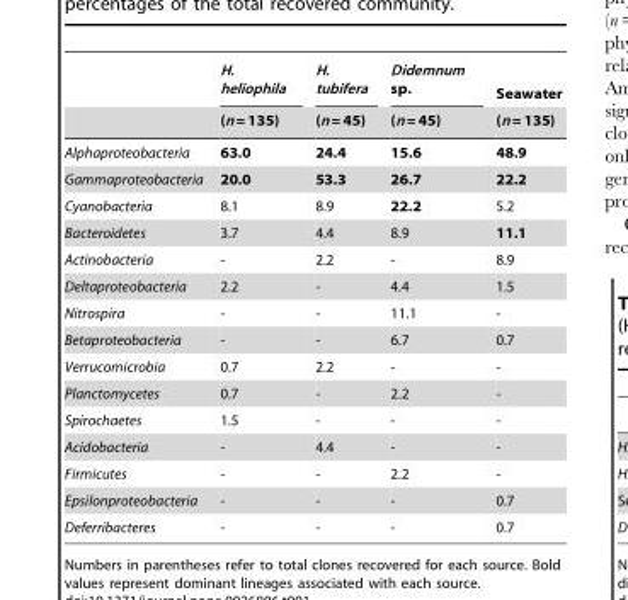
<table><thead><tr><td rowspan="2"></td><td rowspan="2">H. heliophila (n = 135)</td><td rowspan="2">H. tubifera (n = 45)</td><td rowspan="2">Didemnum sp. (n = 45)</td><td rowspan="2">Seawater (n = 135)</td></tr><tr></tr></thead><tbody><tr><td>Alphaproteobacteria</td><td>63.0</td><td>24.4</td><td>15.6</td><td>48.9</td></tr><tr><td>Gammaproteobacteria</td><td>20.0</td><td>53.3</td><td>26.7</td><td>22.2</td></tr><tr><td>Cyanobacteria</td><td>8.1</td><td>8.9</td><td>22.2</td><td>5.2</td></tr><tr><td>Bacteroidetes</td><td>3.7</td><td>4.4</td><td>8.9</td><td>11.1</td></tr><tr><td>Actinobacteria</td><td>-</td><td>2.2</td><td>-</td><td>8.9</td></tr><tr><td>Deltaproteobacteria</td><td>2.2</td><td>-</td><td>4.4</td><td>1.5</td></tr><tr><td>Nitrospira</td><td>-</td><td>-</td><td>11.1</td><td>-</td></tr><tr><td>Betaproteobacteria</td><td>-</td><td>-</td><td>6.7</td><td>0.7</td></tr><tr><td>Verrucomicrobia</td><td>0.7</td><td>2.2</td><td>-</td><td>-</td></tr><tr><td>Planctomycetes</td><td>0.7</td><td>-</td><td>2.2</td><td>-</td></tr><tr><td>Spirochaetes</td><td>1.5</td><td>-</td><td>-</td><td>-</td></tr><tr><td>Acidobacteria</td><td>-</td><td>4.4</td><td>-</td><td>-</td></tr><tr><td>Firmicutes</td><td>-</td><td>-</td><td>2.2</td><td>-</td></tr><tr><td>Epsilonproteobacteria</td><td>-</td><td>-</td><td>-</td><td>0.7</td></tr><tr><td>Deferribacteres</td><td>-</td><td>-</td><td>-</td><td>0.7</td></tr></tbody></table>